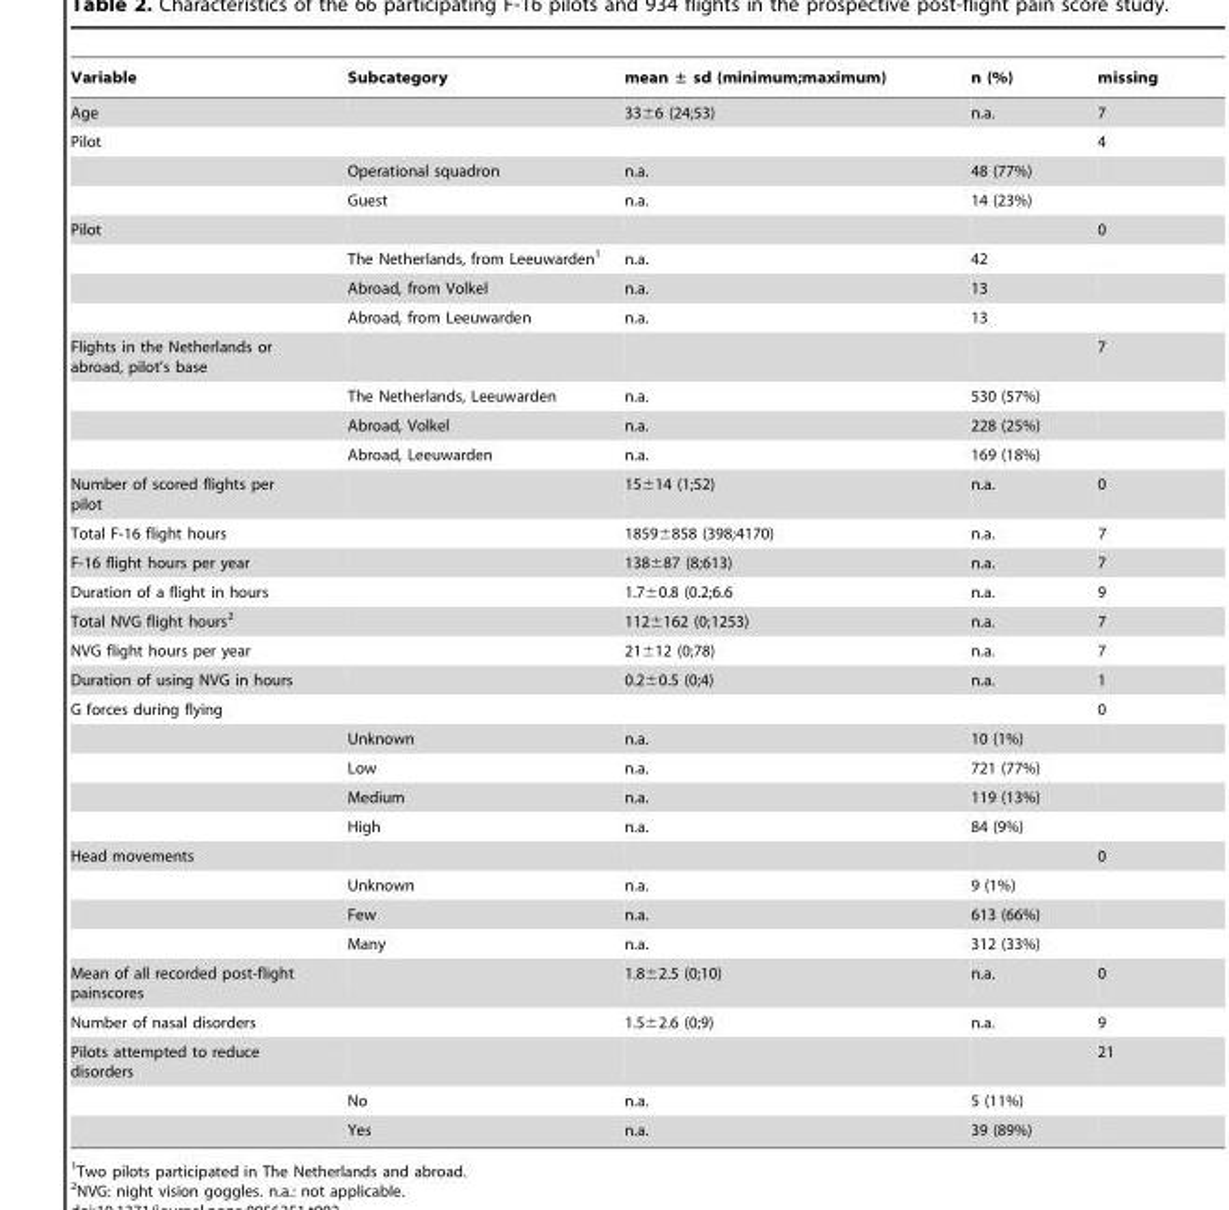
<table><thead><tr><td>Variable</td><td>Subcategory</td><td>mean ± sd (minimum;maximum)</td><td>n (%)</td><td>missing</td></tr></thead><tbody><tr><td>Age</td><td></td><td>33±6 (24;53)</td><td>n.a.</td><td>7</td></tr><tr><td rowspan="3">Pilot</td><td></td><td></td><td></td><td>4</td></tr><tr><td>Operational squadron</td><td>n.a.</td><td>48 (77%)</td><td></td></tr><tr><td>Guest</td><td>n.a.</td><td>14 (23%)</td><td></td></tr><tr><td rowspan="4">Pilot</td><td></td><td></td><td></td><td>0</td></tr><tr><td>The Netherlands, from Leeuwarden<sup>1</sup></td><td>n.a.</td><td>42</td><td></td></tr><tr><td>Abroad, from Volkel</td><td>n.a.</td><td>13</td><td></td></tr><tr><td>Abroad, from Leeuwarden</td><td>n.a.</td><td>13</td><td></td></tr><tr><td rowspan="4">Flights in the Netherlands or abroad, pilot’s base</td><td></td><td></td><td></td><td>7</td></tr><tr><td>The Netherlands, Leeuwarden</td><td>n.a.</td><td>530 (57%)</td><td></td></tr><tr><td>Abroad, Volkel</td><td>n.a.</td><td>228 (25%)</td><td></td></tr><tr><td>Abroad, Leeuwarden</td><td>n.a.</td><td>169 (18%)</td><td></td></tr><tr><td>Number of scored flights per pilot</td><td></td><td>15±14 (1;52)</td><td>n.a.</td><td>0</td></tr><tr><td>Total F-16 flight hours</td><td></td><td>1859±858 (398;4170)</td><td>n.a.</td><td>7</td></tr><tr><td>F-16 flight hours per year</td><td></td><td>138±87 (8;613)</td><td>n.a.</td><td>7</td></tr><tr><td>Duration of a flight in hours</td><td></td><td>1.7±0.8 (0.2;6.6</td><td>n.a.</td><td>9</td></tr><tr><td>Total NVG flight hours<sup>2</sup></td><td></td><td>112±162 (0;1253)</td><td>n.a.</td><td>7</td></tr><tr><td>NVG flight hours per year</td><td></td><td>21±12 (0;78)</td><td>n.a.</td><td>7</td></tr><tr><td>Duration of using NVG in hours</td><td></td><td>0.2±0.5 (0;4)</td><td>n.a.</td><td>1</td></tr><tr><td rowspan="5">G forces during flying</td><td></td><td></td><td></td><td>0</td></tr><tr><td>Unknown</td><td>n.a.</td><td>10 (1%)</td><td></td></tr><tr><td>Low</td><td>n.a.</td><td>721 (77%)</td><td></td></tr><tr><td>Medium</td><td>n.a.</td><td>119 (13%)</td><td></td></tr><tr><td>High</td><td>n.a.</td><td>84 (9%)</td><td></td></tr><tr><td rowspan="4">Head movements</td><td></td><td></td><td></td><td>0</td></tr><tr><td>Unknown</td><td>n.a.</td><td>9 (1%)</td><td></td></tr><tr><td>Few</td><td>n.a.</td><td>613 (66%)</td><td></td></tr><tr><td>Many</td><td>n.a.</td><td>312 (33%)</td><td></td></tr><tr><td>Mean of all recorded post-flight painscores</td><td></td><td>1.8±2.5 (0;10)</td><td>n.a.</td><td>0</td></tr><tr><td>Number of nasal disorders</td><td></td><td>1.5±2.6 (0;9)</td><td>n.a.</td><td>9</td></tr><tr><td rowspan="3">Pilots attempted to reduce disorders</td><td></td><td></td><td></td><td>21</td></tr><tr><td>No</td><td>n.a.</td><td>5 (11%)</td><td></td></tr><tr><td>Yes</td><td>n.a.</td><td>39 (89%)</td><td></td></tr></tbody></table>